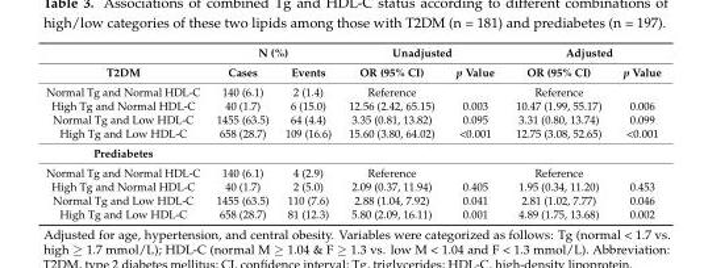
<table><thead><tr><td rowspan="2">T2DM</td><td colspan="2">N (%)</td><td colspan="2">Unadjusted</td><td colspan="2">Adjusted</td></tr><tr><td>Cases</td><td>Events</td><td>OR (95% CI)</td><td>p Value</td><td>OR (95% CI)</td><td>p Value</td></tr></thead><tbody><tr><td>Normal Tg and Normal HDL-C</td><td>140 (6.1)</td><td>2 (1.4)</td><td>Reference</td><td></td><td>Reference</td><td></td></tr><tr><td>High Tg and Normal HDL-C</td><td>40 (1.7)</td><td>6 (15.0)</td><td>12.56 (2.42, 65.15)</td><td>0.003</td><td>10.47 (1.99, 55.17)</td><td>0.006</td></tr><tr><td>Normal Tg and Low HDL-C</td><td>1455 (63.5)</td><td>64 (4.4)</td><td>3.35 (0.81, 13.82)</td><td>0.095</td><td>3.31 (0.80, 13.74)</td><td>0.099</td></tr><tr><td>High Tg and Low HDL-C</td><td>658 (28.7)</td><td>109 (16.6)</td><td>15.60 (3.80, 64.02)</td><td>&lt;0.001</td><td>12.75 (3.08, 52.65)</td><td>&lt;0.001</td></tr><tr><td colspan="7">Prediabetes</td></tr><tr><td>Normal Tg and Normal HDL-C</td><td>140 (6.1)</td><td>4 (2.9)</td><td>Reference</td><td></td><td>Reference</td><td></td></tr><tr><td>High Tg and Normal HDL-C</td><td>40 (1.7)</td><td>2 (5.0)</td><td>2.09 (0.37, 11.94)</td><td>0.405</td><td>1.95 (0.34, 11.20)</td><td>0.453</td></tr><tr><td>Normal Tg and Low HDL-C</td><td>1455 (63.5)</td><td>110 (7.6)</td><td>2.88 (1.04, 7.92)</td><td>0.041</td><td>2.81 (1.02, 7.77)</td><td>0.046</td></tr><tr><td>High Tg and Low HDL-C</td><td>658 (28.7)</td><td>81 (12.3)</td><td>5.80 (2.09, 16.11)</td><td>0.001</td><td>4.89 (1.75, 13.68)</td><td>0.002</td></tr></tbody></table>